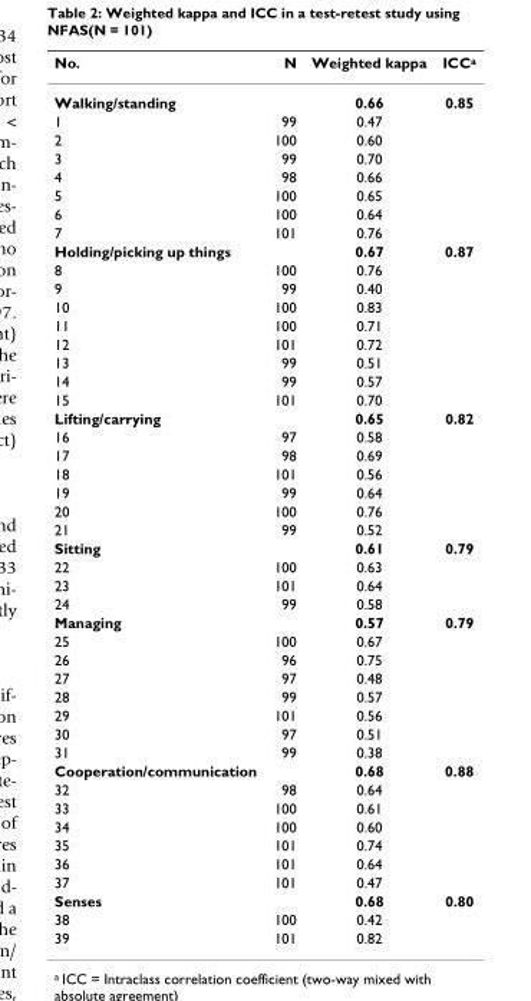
<table><thead><tr><td>No.</td><td>N</td><td>Weighted kappa</td><td>ICC<sup>a</sup></td></tr></thead><tbody><tr><td>Walking/standing</td><td></td><td>0.66</td><td>0.85</td></tr><tr><td>1</td><td>99</td><td>0.47</td><td></td></tr><tr><td>2</td><td>100</td><td>0.60</td><td></td></tr><tr><td>3</td><td>99</td><td>0.70</td><td></td></tr><tr><td>4</td><td>98</td><td>0.66</td><td></td></tr><tr><td>5</td><td>100</td><td>0.65</td><td></td></tr><tr><td>6</td><td>100</td><td>0.64</td><td></td></tr><tr><td>7</td><td>101</td><td>0.76</td><td></td></tr><tr><td>Holding/picking up things</td><td></td><td>0.67</td><td>0.87</td></tr><tr><td>8</td><td>100</td><td>0.76</td><td></td></tr><tr><td>9</td><td>99</td><td>0.40</td><td></td></tr><tr><td>10</td><td>100</td><td>0.83</td><td></td></tr><tr><td>11</td><td>100</td><td>0.71</td><td></td></tr><tr><td>12</td><td>101</td><td>0.72</td><td></td></tr><tr><td>13</td><td>99</td><td>0.51</td><td></td></tr><tr><td>14</td><td>99</td><td>0.57</td><td></td></tr><tr><td>15</td><td>101</td><td>0.70</td><td></td></tr><tr><td>Lifting/carrying</td><td></td><td>0.65</td><td>0.82</td></tr><tr><td>16</td><td>97</td><td>0.58</td><td></td></tr><tr><td>17</td><td>98</td><td>0.69</td><td></td></tr><tr><td>18</td><td>101</td><td>0.56</td><td></td></tr><tr><td>19</td><td>99</td><td>0.64</td><td></td></tr><tr><td>20</td><td>100</td><td>0.76</td><td></td></tr><tr><td>21</td><td>99</td><td>0.52</td><td></td></tr><tr><td>Sitting</td><td></td><td>0.61</td><td>0.79</td></tr><tr><td>22</td><td>100</td><td>0.63</td><td></td></tr><tr><td>23</td><td>101</td><td>0.64</td><td></td></tr><tr><td>24</td><td>99</td><td>0.58</td><td></td></tr><tr><td>Managing</td><td></td><td>0.57</td><td>0.79</td></tr><tr><td>25</td><td>100</td><td>0.67</td><td></td></tr><tr><td>26</td><td>96</td><td>0.75</td><td></td></tr><tr><td>27</td><td>97</td><td>0.48</td><td></td></tr><tr><td>28</td><td>99</td><td>0.57</td><td></td></tr><tr><td>29</td><td>101</td><td>0.56</td><td></td></tr><tr><td>30</td><td>97</td><td>0.51</td><td></td></tr><tr><td>31</td><td>99</td><td>0.38</td><td></td></tr><tr><td>Cooperation/communication</td><td></td><td>0.68</td><td>0.88</td></tr><tr><td>32</td><td>98</td><td>0.64</td><td></td></tr><tr><td>33</td><td>100</td><td>0.61</td><td></td></tr><tr><td>34</td><td>100</td><td>0.60</td><td></td></tr><tr><td>35</td><td>101</td><td>0.74</td><td></td></tr><tr><td>36</td><td>101</td><td>0.64</td><td></td></tr><tr><td>37</td><td>101</td><td>0.47</td><td></td></tr><tr><td>Senses</td><td></td><td>0.68</td><td>0.80</td></tr><tr><td>38</td><td>100</td><td>0.42</td><td></td></tr><tr><td>39</td><td>101</td><td>0.82</td><td></td></tr></tbody></table>